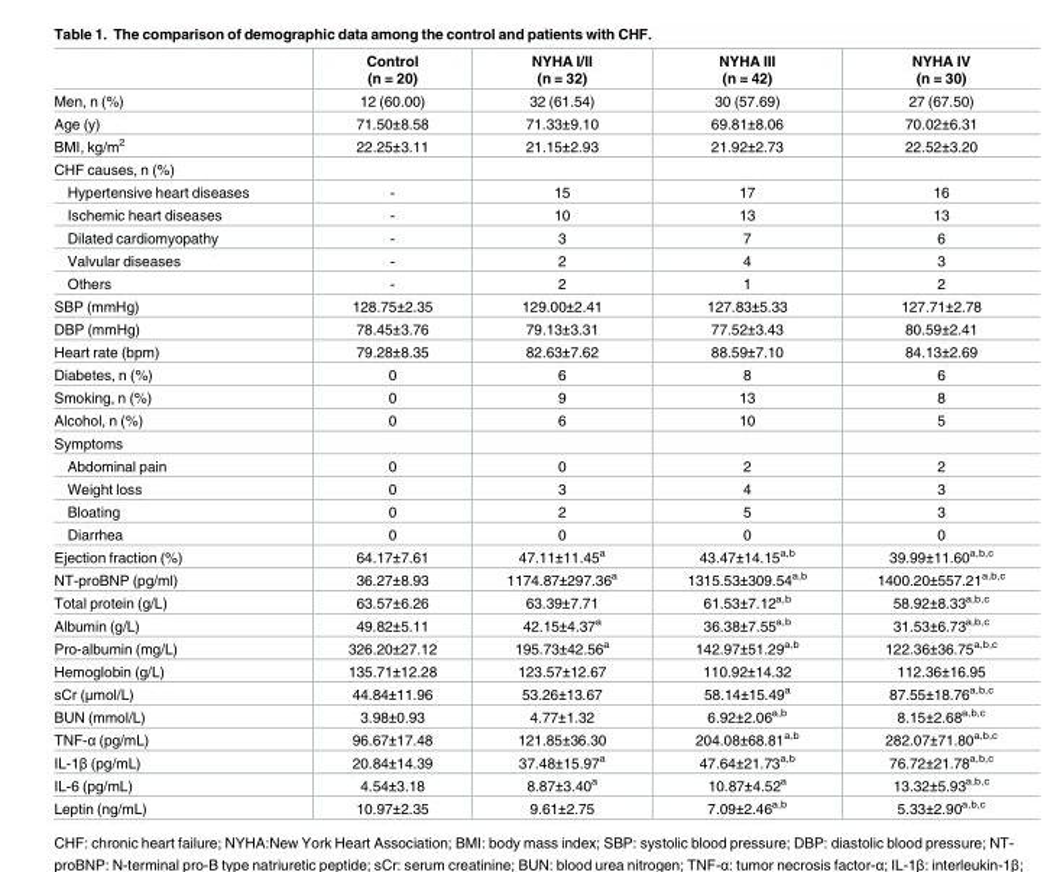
<table><thead><tr><td></td><td>Control (n = 20)</td><td>NYHA I/II (n = 32)</td><td>NYHA III (n = 42)</td><td>NYHA IV (n = 30)</td></tr></thead><tbody><tr><td>Men, n (%)</td><td>12 (60.00)</td><td>32 (61.54)</td><td>30 (57.69)</td><td>27 (67.50)</td></tr><tr><td>Age (y)</td><td>71.50±8.58</td><td>71.33±9.10</td><td>69.81±8.06</td><td>70.02±6.31</td></tr><tr><td>BMI, kg/m<sup>2</sup></td><td>22.25±3.11</td><td>21.15±2.93</td><td>21.92±2.73</td><td>22.52±3.20</td></tr><tr><td colspan="5">CHF causes, n (%)</td></tr><tr><td>Hypertensive heart diseases</td><td>-</td><td>15</td><td>17</td><td>16</td></tr><tr><td>Ischemic heart diseases</td><td>-</td><td>10</td><td>13</td><td>13</td></tr><tr><td>Dilated cardiomyopathy</td><td>-</td><td>3</td><td>7</td><td>6</td></tr><tr><td>Valvular diseases</td><td>-</td><td>2</td><td>4</td><td>3</td></tr><tr><td>Others</td><td>-</td><td>2</td><td>1</td><td>2</td></tr><tr><td>SBP (mmHg)</td><td>128.75±2.35</td><td>129.00±2.41</td><td>127.83±5.33</td><td>127.71±2.78</td></tr><tr><td>DBP (mmHg)</td><td>78.45±3.76</td><td>79.13±3.31</td><td>77.52±3.43</td><td>80.59±2.41</td></tr><tr><td>Heart rate (bpm)</td><td>79.28±8.35</td><td>82.63±7.62</td><td>88.59±7.10</td><td>84.13±2.69</td></tr><tr><td>Diabetes, n (%)</td><td>0</td><td>6</td><td>8</td><td>6</td></tr><tr><td>Smoking, n (%)</td><td>0</td><td>9</td><td>13</td><td>8</td></tr><tr><td>Alcohol, n (%)</td><td>0</td><td>6</td><td>10</td><td>5</td></tr><tr><td colspan="5">Symptoms</td></tr><tr><td>Abdominal pain</td><td>0</td><td>0</td><td>2</td><td>2</td></tr><tr><td>Weight loss</td><td>0</td><td>3</td><td>4</td><td>3</td></tr><tr><td>Bloating</td><td>0</td><td>2</td><td>5</td><td>3</td></tr><tr><td>Diarrhea</td><td>0</td><td>0</td><td>0</td><td>0</td></tr><tr><td>Ejection fraction (%)</td><td>64.17±7.61</td><td>47.11±11.45<sup>a</sup></td><td>43.47±14.15<sup>a,b</sup></td><td>39.99±11.60<sup>a,b,c</sup></td></tr><tr><td>NT-proBNP (pg/ml)</td><td>36.27±8.93</td><td>1174.87±297.36<sup>a</sup></td><td>1315.53±309.54<sup>a,b</sup></td><td>1400.20±557.21<sup>a,b,c</sup></td></tr><tr><td>Total protein (g/L)</td><td>63.57±6.26</td><td>63.39±7.71</td><td>61.53±7.12<sup>a,b</sup></td><td>58.92±8.33<sup>a,b,c</sup></td></tr><tr><td>Albumin (g/L)</td><td>49.82±5.11</td><td>42.15±4.37<sup>a</sup></td><td>36.38±7.55<sup>a,b</sup></td><td>31.53±6.73<sup>a,b,c</sup></td></tr><tr><td>Pro-albumin (mg/L)</td><td>326.20±27.12</td><td>195.73±42.56<sup>a</sup></td><td>142.97±51.29<sup>a,b</sup></td><td>122.36±36.75<sup>a,b,c</sup></td></tr><tr><td>Hemoglobin (g/L)</td><td>135.71±12.28</td><td>123.57±12.67</td><td>110.92±14.32</td><td>112.36±16.95</td></tr><tr><td>sCr (μmol/L)</td><td>44.84±11.96</td><td>53.26±13.67</td><td>58.14±15.49<sup>a</sup></td><td>87.55±18.76<sup>a,b,c</sup></td></tr><tr><td>BUN (mmol/L)</td><td>3.98±0.93</td><td>4.77±1.32</td><td>6.92±2.06<sup>a,b</sup></td><td>8.15±2.68<sup>a,b,c</sup></td></tr><tr><td>TNF-α (pg/mL)</td><td>96.67±17.48</td><td>121.85±36.30</td><td>204.08±68.81<sup>a,b</sup></td><td>282.07±71.80<sup>a,b,c</sup></td></tr><tr><td>IL-1β (pg/mL)</td><td>20.84±14.39</td><td>37.48±15.97<sup>a</sup></td><td>47.64±21.73<sup>a,b</sup></td><td>76.72±21.78<sup>a,b,c</sup></td></tr><tr><td>IL-6 (pg/mL)</td><td>4.54±3.18</td><td>8.87±3.40<sup>a</sup></td><td>10.87±4.52<sup>a</sup></td><td>13.32±5.93<sup>a,b,c</sup></td></tr><tr><td>Leptin (ng/mL)</td><td>10.97±2.35</td><td>9.61±2.75</td><td>7.09±2.46<sup>a,b</sup></td><td>5.33±2.90<sup>a,b,c</sup></td></tr></tbody></table>